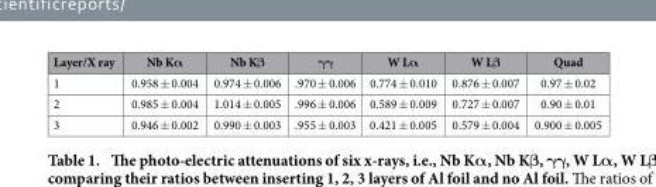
<table><thead><tr><td>Layer/X ray</td><td>Nb Kα</td><td>Nb Kβ</td><td>γγ</td><td>W Lα</td><td>W Lβ</td><td>Quad</td></tr></thead><tbody><tr><td>1</td><td>0.958 ± 0.004</td><td>0.974 ± 0.006</td><td>.970 ± 0.006</td><td>0.774 ± 0.010</td><td>0.876 ± 0.007</td><td>0.97 ± 0.02</td></tr><tr><td>2</td><td>0.985 ± 0.004</td><td>1.014 ± 0.005</td><td>.996 ± 0.006</td><td>0.589 ± 0.009</td><td>0.727 ± 0.007</td><td>0.90 ± 0.01</td></tr><tr><td>3</td><td>0.946 ± 0.002</td><td>0.990 ± 0.003</td><td>.955 ± 0.003</td><td>0.421 ± 0.005</td><td>0.579 ± 0.004</td><td>0.900 ± 0.005</td></tr></tbody></table>